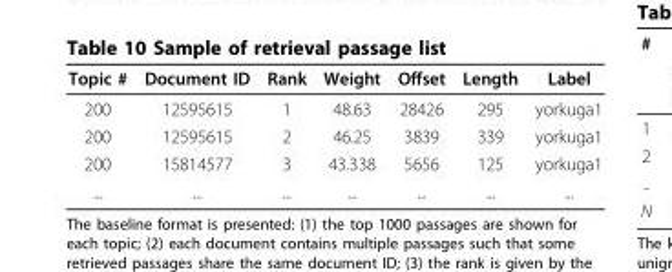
<table><thead><tr><td>Topic #</td><td>Document ID</td><td>Rank</td><td>Weight</td><td>Offset</td><td>Length</td><td>Label</td></tr></thead><tbody><tr><td>200</td><td>12595615</td><td>1</td><td>48.63</td><td>28426</td><td>295</td><td>yorkuga1</td></tr><tr><td>200</td><td>12595615</td><td>2</td><td>46.25</td><td>3839</td><td>339</td><td>yorkuga1</td></tr><tr><td>200</td><td>15814577</td><td>3</td><td>43.338</td><td>5656</td><td>125</td><td>yorkuga1</td></tr><tr><td>...</td><td>...</td><td>...</td><td>...</td><td>...</td><td>...</td><td>...</td></tr></tbody></table>